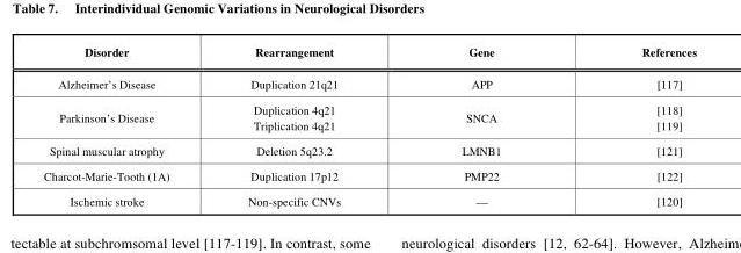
<table><thead><tr><td>Disorder</td><td>Rearrangement</td><td>Gene</td><td>References</td></tr></thead><tbody><tr><td>Alzheimer’s Disease</td><td>Duplication 21q21</td><td>APP</td><td>[117]</td></tr><tr><td>Parkinson’s Disease</td><td>Duplication 4q21 Triplication 4q21</td><td>SNCA</td><td>[118] [119]</td></tr><tr><td>Spinal muscular atrophy</td><td>Deletion 5q23.2</td><td>LMNB1</td><td>[121]</td></tr><tr><td>Charcot-Marie-Tooth (1A)</td><td>Duplication 17p12</td><td>PMP22</td><td>[122]</td></tr><tr><td>Ischemic stroke</td><td>Non-specific CNVs</td><td>—</td><td>[120]</td></tr></tbody></table>